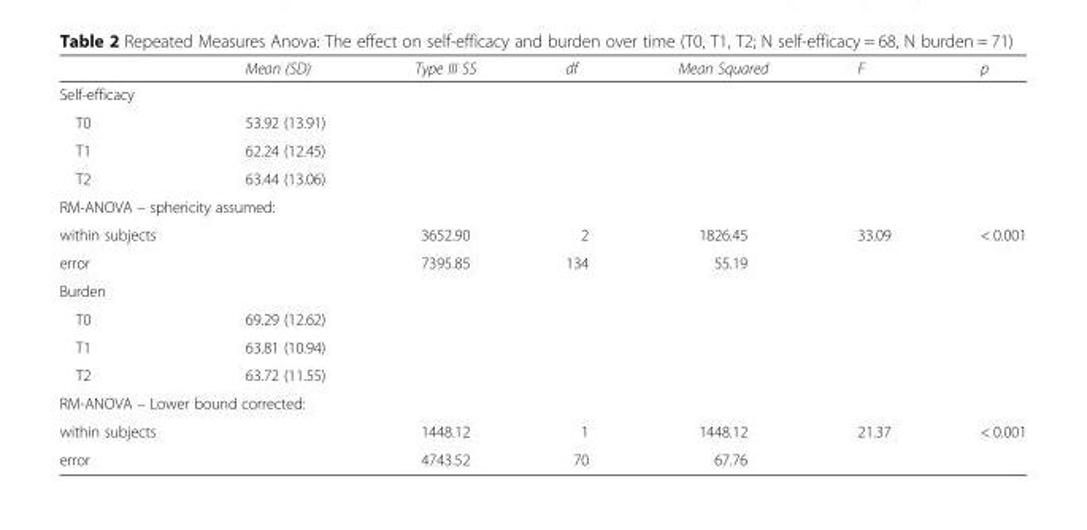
<table><thead><tr><td></td><td>Mean (SD)</td><td>Type III SS</td><td>df</td><td>Mean Squared</td><td>F</td><td>p</td></tr></thead><tbody><tr><td colspan="7">Self-efficacy</td></tr><tr><td>T0</td><td>53.92 (13.91)</td><td></td><td></td><td></td><td></td><td></td></tr><tr><td>T1</td><td>62.24 (12.45)</td><td></td><td></td><td></td><td></td><td></td></tr><tr><td>T2</td><td>63.44 (13.06)</td><td></td><td></td><td></td><td></td><td></td></tr><tr><td colspan="7">RM-ANOVA – sphericity assumed:</td></tr><tr><td>within subjects</td><td></td><td>3652.90</td><td>2</td><td>1826.45</td><td>33.09</td><td>&lt; 0.001</td></tr><tr><td>error</td><td></td><td>7395.85</td><td>134</td><td>55.19</td><td></td><td></td></tr><tr><td colspan="7">Burden</td></tr><tr><td>T0</td><td>69.29 (12.62)</td><td></td><td></td><td></td><td></td><td></td></tr><tr><td>T1</td><td>63.81 (10.94)</td><td></td><td></td><td></td><td></td><td></td></tr><tr><td>T2</td><td>63.72 (11.55)</td><td></td><td></td><td></td><td></td><td></td></tr><tr><td colspan="7">RM-ANOVA – Lower bound corrected:</td></tr><tr><td>within subjects</td><td></td><td>1448.12</td><td>1</td><td>1448.12</td><td>21.37</td><td>&lt; 0.001</td></tr><tr><td>error</td><td></td><td>4743.52</td><td>70</td><td>67.76</td><td></td><td></td></tr></tbody></table>